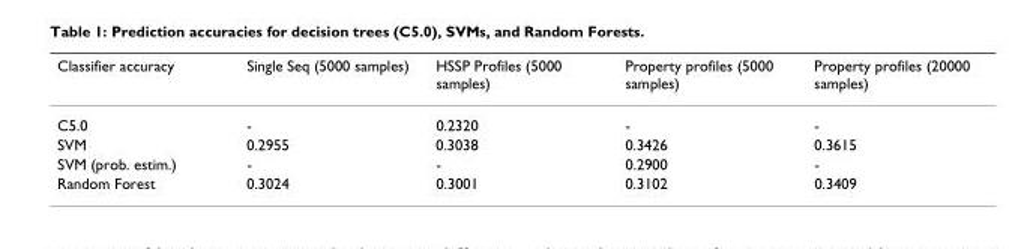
<table><thead><tr><td>Classifier accuracy</td><td>Single Seq (5000 samples)</td><td>HSSP Profiles (5000 samples)</td><td>Property profiles (5000 samples)</td><td>Property profiles (20000 samples)</td></tr></thead><tbody><tr><td>C5.0</td><td>-</td><td>0.2320</td><td>-</td><td>-</td></tr><tr><td>SVM</td><td>0.2955</td><td>0.3038</td><td>0.3426</td><td>0.3615</td></tr><tr><td>SVM (prob. estim.)</td><td>-</td><td>-</td><td>0.2900</td><td>-</td></tr><tr><td>Random Forest</td><td>0.3024</td><td>0.3001</td><td>0.3102</td><td>0.3409</td></tr></tbody></table>